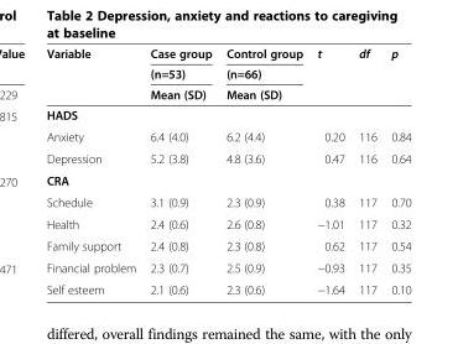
<table><thead><tr><td rowspan="3">Variable</td><td rowspan="3">Case group (n=53) Mean (SD)</td><td rowspan="3">Control group (n=66) Mean (SD)</td><td rowspan="3">t</td><td rowspan="3">df</td><td rowspan="3">p</td></tr><tr></tr><tr></tr></thead><tbody><tr><td colspan="6">HADS</td></tr><tr><td>Anxiety</td><td>6.4 (4.0)</td><td>6.2 (4.4)</td><td>0.20</td><td>116</td><td>0.84</td></tr><tr><td>Depression</td><td>5.2 (3.8)</td><td>4.8 (3.6)</td><td>0.47</td><td>116</td><td>0.64</td></tr><tr><td colspan="6">CRA</td></tr><tr><td>Schedule</td><td>3.1 (0.9)</td><td>2.3 (0.9)</td><td>0.38</td><td>117</td><td>0.70</td></tr><tr><td>Health</td><td>2.4 (0.6)</td><td>2.6 (0.8)</td><td>−1.01</td><td>117</td><td>0.32</td></tr><tr><td>Family support</td><td>2.4 (0.8)</td><td>2.3 (0.8)</td><td>0.62</td><td>117</td><td>0.54</td></tr><tr><td>Financial problem</td><td>2.3 (0.7)</td><td>2.5 (0.9)</td><td>−0.93</td><td>117</td><td>0.35</td></tr><tr><td>Self esteem</td><td>2.1 (0.6)</td><td>2.3 (0.6)</td><td>−1.64</td><td>117</td><td>0.10</td></tr></tbody></table>